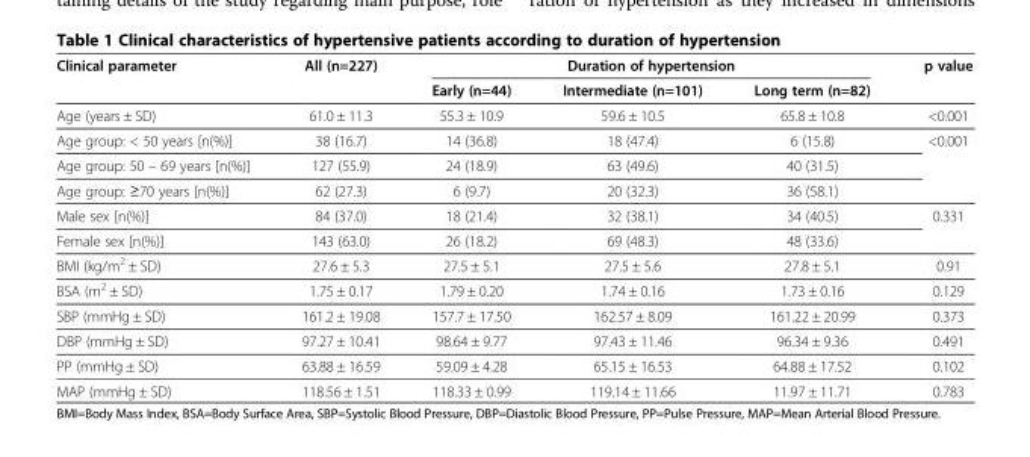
<table><thead><tr><td rowspan="2">Clinical parameter</td><td rowspan="2">All (n=227)</td><td colspan="3">Duration of hypertension</td><td rowspan="2">p value</td></tr><tr><td>Early (n=44)</td><td>Intermediate (n=101)</td><td>Long term (n=82)</td></tr></thead><tbody><tr><td>Age (years ± SD)</td><td>61.0 ± 11.3</td><td>55.3 ± 10.9</td><td>59.6 ± 10.5</td><td>65.8 ± 10.8</td><td>&lt;0.001</td></tr><tr><td>Age group: &lt; 50 years [n(%)]</td><td>38 (16.7)</td><td>14 (36.8)</td><td>18 (47.4)</td><td>6 (15.8)</td><td>&lt;0.001</td></tr><tr><td>Age group: 50 – 69 years [n(%)]</td><td>127 (55.9)</td><td>24 (18.9)</td><td>63 (49.6)</td><td>40 (31.5)</td><td></td></tr><tr><td>Age group: ≥70 years [n(%)]</td><td>62 (27.3)</td><td>6 (9.7)</td><td>20 (32.3)</td><td>36 (58.1)</td><td></td></tr><tr><td>Male sex [n(%)]</td><td>84 (37.0)</td><td>18 (21.4)</td><td>32 (38.1)</td><td>34 (40.5)</td><td>0.331</td></tr><tr><td>Female sex [n(%)]</td><td>143 (63.0)</td><td>26 (18.2)</td><td>69 (48.3)</td><td>48 (33.6)</td><td></td></tr><tr><td>BMI (kg/m<sup>2</sup> ± SD)</td><td>27.6 ± 5.3</td><td>27.5 ± 5.1</td><td>27.5 ± 5.6</td><td>27.8 ± 5.1</td><td>0.91</td></tr><tr><td>BSA (m<sup>2</sup> ± SD)</td><td>1.75 ± 0.17</td><td>1.79 ± 0.20</td><td>1.74 ± 0.16</td><td>1.73 ± 0.16</td><td>0.129</td></tr><tr><td>SBP (mmHg ± SD)</td><td>161.2 ± 19.08</td><td>157.7 ± 17.50</td><td>162.57 ± 8.09</td><td>161.22 ± 20.99</td><td>0.373</td></tr><tr><td>DBP (mmHg ± SD)</td><td>97.27 ± 10.41</td><td>98.64 ± 9.77</td><td>97.43 ± 11.46</td><td>96.34 ± 9.36</td><td>0.491</td></tr><tr><td>PP (mmHg ± SD)</td><td>63.88 ± 16.59</td><td>59.09 ± 4.28</td><td>65.15 ± 16.53</td><td>64.88 ± 17.52</td><td>0.102</td></tr><tr><td>MAP (mmHg ± SD)</td><td>118.56 ± 1.51</td><td>118.33 ± 0.99</td><td>119.14 ± 11.66</td><td>11.97 ± 11.71</td><td>0.783</td></tr></tbody></table>